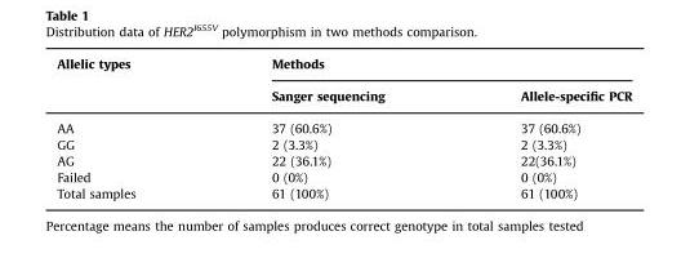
<table><thead><tr><td rowspan="2">Allelic types</td><td colspan="2">Methods</td></tr><tr><td>Sanger sequencing</td><td>Allele-specific PCR</td></tr></thead><tbody><tr><td>AA</td><td>37 (60.6%)</td><td>37 (60.6%)</td></tr><tr><td>GG</td><td>2 (3.3%)</td><td>2 (3.3%)</td></tr><tr><td>AG</td><td>22 (36.1%)</td><td>22(36.1%)</td></tr><tr><td>Failed</td><td>0 (0%)</td><td>0 (0%)</td></tr><tr><td>Total samples</td><td>61 (100%)</td><td>61 (100%)</td></tr></tbody></table>